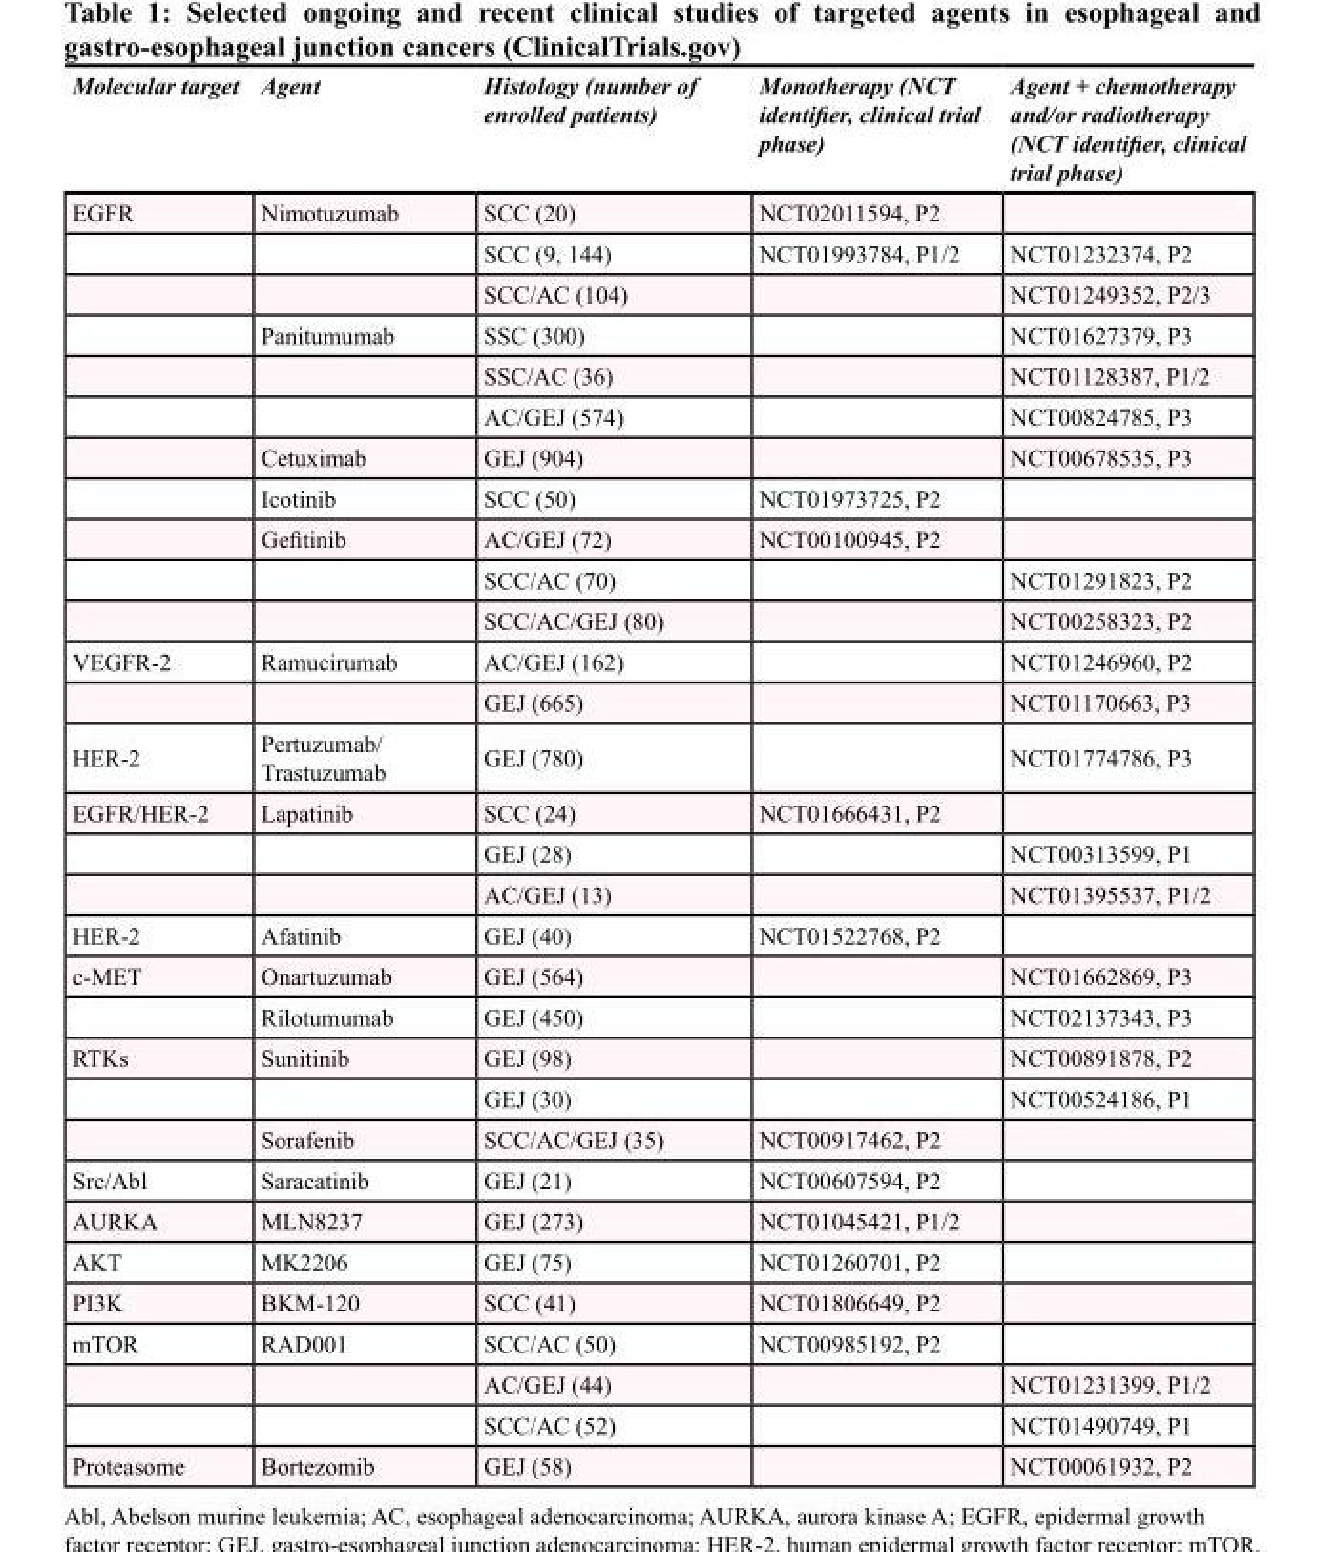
<table><thead><tr><td>Molecular target</td><td>Agent</td><td>Histology (number of enrolled patients)</td><td>Monotherapy (NCT identifier, clinical trial phase)</td><td>Agent + chemotherapy and/or radiotherapy (NCT identifier, clinical trial phase)</td></tr></thead><tbody><tr><td rowspan="11">EGFR</td><td>Nimotuzumab</td><td>SCC (20)</td><td>NCT02011594, P2</td><td></td></tr><tr><td></td><td>SCC (9, 144)</td><td>NCT01993784, P1/2</td><td>NCT01232374, P2</td></tr><tr><td></td><td>SCC/AC (104)</td><td></td><td>NCT01249352, P2/3</td></tr><tr><td>Panitumumab</td><td>SSC (300)</td><td></td><td>NCT01627379, P3</td></tr><tr><td></td><td>SSC/AC (36)</td><td></td><td>NCT01128387, P1/2</td></tr><tr><td></td><td>AC/GEJ (574)</td><td></td><td>NCT00824785, P3</td></tr><tr><td>Cetuximab</td><td>GEJ (904)</td><td></td><td>NCT00678535, P3</td></tr><tr><td>Icotinib</td><td>SCC (50)</td><td>NCT01973725, P2</td><td></td></tr><tr><td>Gefitinib</td><td>AC/GEJ (72)</td><td>NCT00100945, P2</td><td></td></tr><tr><td></td><td>SCC/AC (70)</td><td></td><td>NCT01291823, P2</td></tr><tr><td></td><td>SCC/AC/GEJ (80)</td><td></td><td>NCT00258323, P2</td></tr><tr><td rowspan="2">VEGFR-2</td><td>Ramucirumab</td><td>AC/GEJ (162)</td><td></td><td>NCT01246960, P2</td></tr><tr><td></td><td>GEJ (665)</td><td></td><td>NCT01170663, P3</td></tr><tr><td>HER-2</td><td>Pertuzumab/ Trastuzumab</td><td>GEJ (780)</td><td></td><td>NCT01774786, P3</td></tr><tr><td rowspan="3">EGFR/HER-2</td><td>Lapatinib</td><td>SCC (24)</td><td>NCT01666431, P2</td><td></td></tr><tr><td></td><td>GEJ (28)</td><td></td><td>NCT00313599, P1</td></tr><tr><td></td><td>AC/GEJ (13)</td><td></td><td>NCT01395537, P1/2</td></tr><tr><td>HER-2</td><td>Afatinib</td><td>GEJ (40)</td><td>NCT01522768, P2</td><td></td></tr><tr><td rowspan="2">c-MET</td><td>Onartuzumab</td><td>GEJ (564)</td><td></td><td>NCT01662869, P3</td></tr><tr><td>Rilotumumab</td><td>GEJ (450)</td><td></td><td>NCT02137343, P3</td></tr><tr><td rowspan="3">RTKs</td><td>Sunitinib</td><td>GEJ (98)</td><td></td><td>NCT00891878, P2</td></tr><tr><td></td><td>GEJ (30)</td><td></td><td>NCT00524186, P1</td></tr><tr><td>Sorafenib</td><td>SCC/AC/GEJ (35)</td><td>NCT00917462, P2</td><td></td></tr><tr><td>Src/Abl</td><td>Saracatinib</td><td>GEJ (21)</td><td>NCT00607594, P2</td><td></td></tr><tr><td>AURKA</td><td>MLN8237</td><td>GEJ (273)</td><td>NCT01045421, P1/2</td><td></td></tr><tr><td>AKT</td><td>MK2206</td><td>GEJ (75)</td><td>NCT01260701, P2</td><td></td></tr><tr><td>PI3K</td><td>BKM-120</td><td>SCC (41)</td><td>NCT01806649, P2</td><td></td></tr><tr><td rowspan="3">mTOR</td><td>RAD001</td><td>SCC/AC (50)</td><td>NCT00985192, P2</td><td></td></tr><tr><td></td><td>AC/GEJ (44)</td><td></td><td>NCT01231399, P1/2</td></tr><tr><td></td><td>SCC/AC (52)</td><td></td><td>NCT01490749, P1</td></tr><tr><td>Proteasome</td><td>Bortezomib</td><td>GEJ (58)</td><td></td><td>NCT00061932, P2</td></tr></tbody></table>